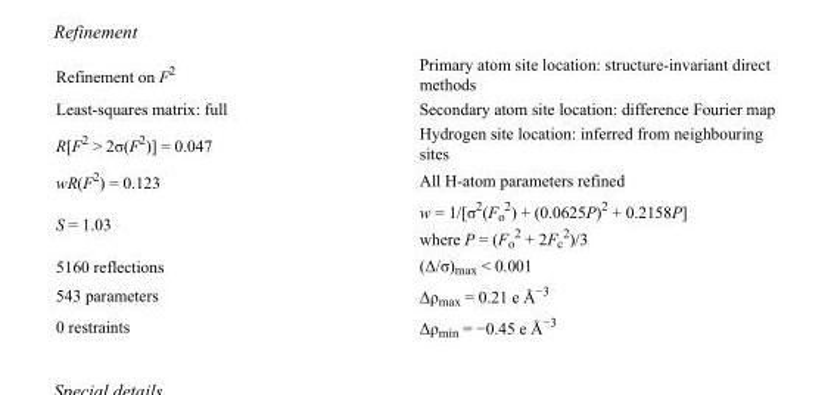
<table><tbody><tr><td>Refinement on F<sup>2</sup></td><td>Primary atom site location: structure-invariant direct methods</td></tr><tr><td>Least-squares matrix: full</td><td>Secondary atom site location: difference Fourier map</td></tr><tr><td>R[F<sup>2</sup> &gt; 2σ(F<sup>2</sup>)] = 0.047</td><td>Hydrogen site location: inferred from neighbouring sites</td></tr><tr><td>wR(F<sup>2</sup>) = 0.123</td><td>All H-atom parameters refined</td></tr><tr><td>S = 1.03</td><td>w = 1/[σ<sup>2</sup>(F<sub>o</sub> <sup>2</sup>) + (0.0625P)<sup>2</sup> + 0.2158P] where P = (F<sub>o</sub> <sup>2</sup> + 2F<sub>c</sub> <sup>2</sup>)/3</td></tr><tr><td>5160 reflections</td><td>(Δ/σ)<sub>max</sub> &lt; 0.001</td></tr><tr><td>543 parameters</td><td>Δρ<sub>max</sub> = 0.21 e Å<sup>−3</sup></td></tr><tr><td>0 restraints</td><td>Δρ<sub>min</sub> = −0.45 e Å<sup>−3</sup></td></tr></tbody></table>